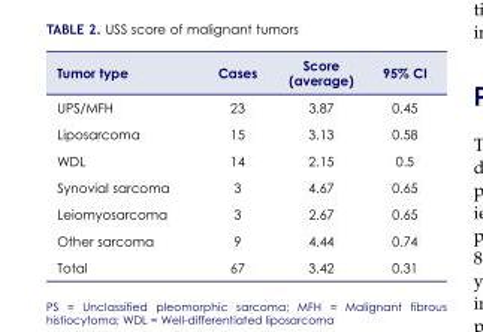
<table><thead><tr><td>Tumor type</td><td>Cases</td><td>Score (average)</td><td>95% CI</td></tr></thead><tbody><tr><td>UPS/MFH</td><td>23</td><td>3.87</td><td>0.45</td></tr><tr><td>Liposarcoma</td><td>15</td><td>3.13</td><td>0.58</td></tr><tr><td>WDL</td><td>14</td><td>2.15</td><td>0.5</td></tr><tr><td>Synovial sarcoma</td><td>3</td><td>4.67</td><td>0.65</td></tr><tr><td>Leiomyosarcoma</td><td>3</td><td>2.67</td><td>0.65</td></tr><tr><td>Other sarcoma</td><td>9</td><td>4.44</td><td>0.74</td></tr><tr><td>Total</td><td>67</td><td>3.42</td><td>0.31</td></tr></tbody></table>